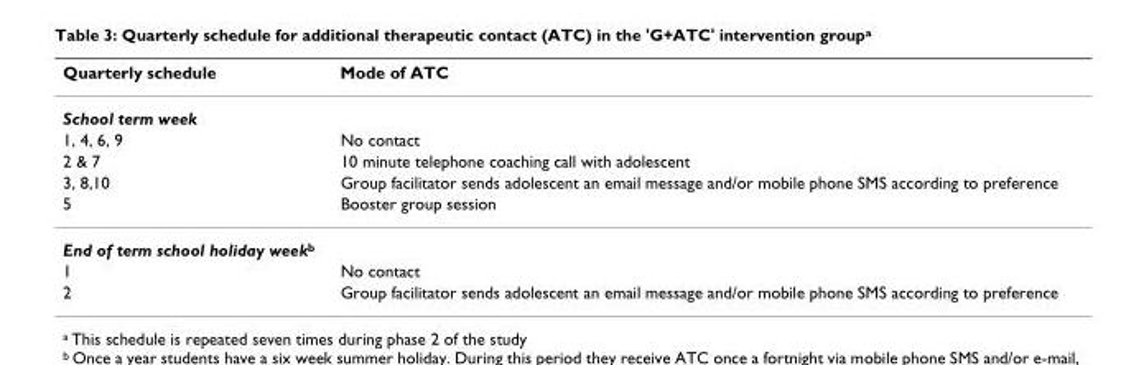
<table><thead><tr><td>Quarterly schedule</td><td>Mode of ATC</td></tr></thead><tbody><tr><td colspan="2">School term week</td></tr><tr><td>1, 4, 6, 9</td><td>No contact</td></tr><tr><td>2 &amp; 7</td><td>10 minute telephone coaching call with adolescent</td></tr><tr><td>3, 8,10</td><td>Group facilitator sends adolescent an email message and/or mobile phone SMS according to preference</td></tr><tr><td>5</td><td>Booster group session</td></tr><tr><td colspan="2">End of term school holiday week<sup>b</sup></td></tr><tr><td>1</td><td>No contact</td></tr><tr><td>2</td><td>Group facilitator sends adolescent an email message and/or mobile phone SMS according to preference</td></tr></tbody></table>